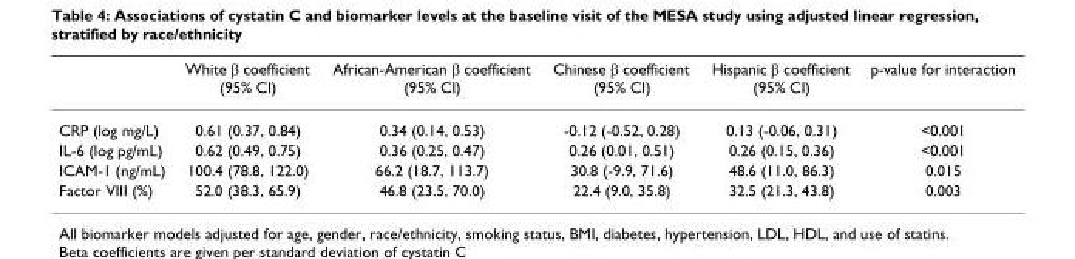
<table><thead><tr><td></td><td>White β coefficient (95% CI)</td><td>African-American β coefficient (95% CI)</td><td>Chinese β coefficient (95% CI)</td><td>Hispanic β coefficient (95% CI)</td><td>p-value for interaction</td></tr></thead><tbody><tr><td>CRP (log mg/L)</td><td>0.61 (0.37, 0.84)</td><td>0.34 (0.14, 0.53)</td><td>-0.12 (-0.52, 0.28)</td><td>0.13 (-0.06, 0.31)</td><td>&lt;0.001</td></tr><tr><td>IL-6 (log pg/mL)</td><td>0.62 (0.49, 0.75)</td><td>0.36 (0.25, 0.47)</td><td>0.26 (0.01, 0.51)</td><td>0.26 (0.15, 0.36)</td><td>&lt;0.001</td></tr><tr><td>ICAM-1 (ng/mL)</td><td>100.4 (78.8, 122.0)</td><td>66.2 (18.7, 113.7)</td><td>30.8 (-9.9, 71.6)</td><td>48.6 (11.0, 86.3)</td><td>0.015</td></tr><tr><td>Factor VIII (%)</td><td>52.0 (38.3, 65.9)</td><td>46.8 (23.5, 70.0)</td><td>22.4 (9.0, 35.8)</td><td>32.5 (21.3, 43.8)</td><td>0.003</td></tr></tbody></table>